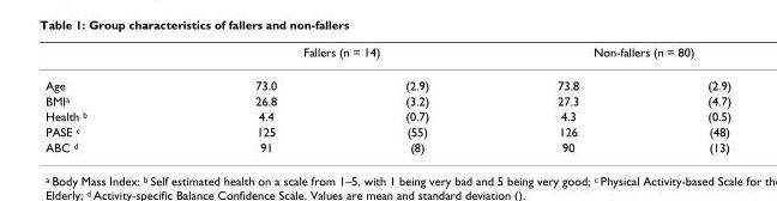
<table><thead><tr><td rowspan="2">Age</td><td colspan="2">Fallers (n = 14)</td><td colspan="2">Non-fallers (n = 80)</td></tr><tr><td>73.0</td><td>(2.9)</td><td>73.8</td><td>(2.9)</td></tr></thead><tbody><tr><td>BMI<sup>a</sup></td><td>26.8</td><td>(3.2)</td><td>27.3</td><td>(4.7)</td></tr><tr><td>Health <sup>b</sup></td><td>4.4</td><td>(0.7)</td><td>4.3</td><td>(0.5)</td></tr><tr><td>PASE <sup>c</sup></td><td>125</td><td>(55)</td><td>126</td><td>(48)</td></tr><tr><td>ABC <sup>d</sup></td><td>91</td><td>(8)</td><td>90</td><td>(13)</td></tr></tbody></table>